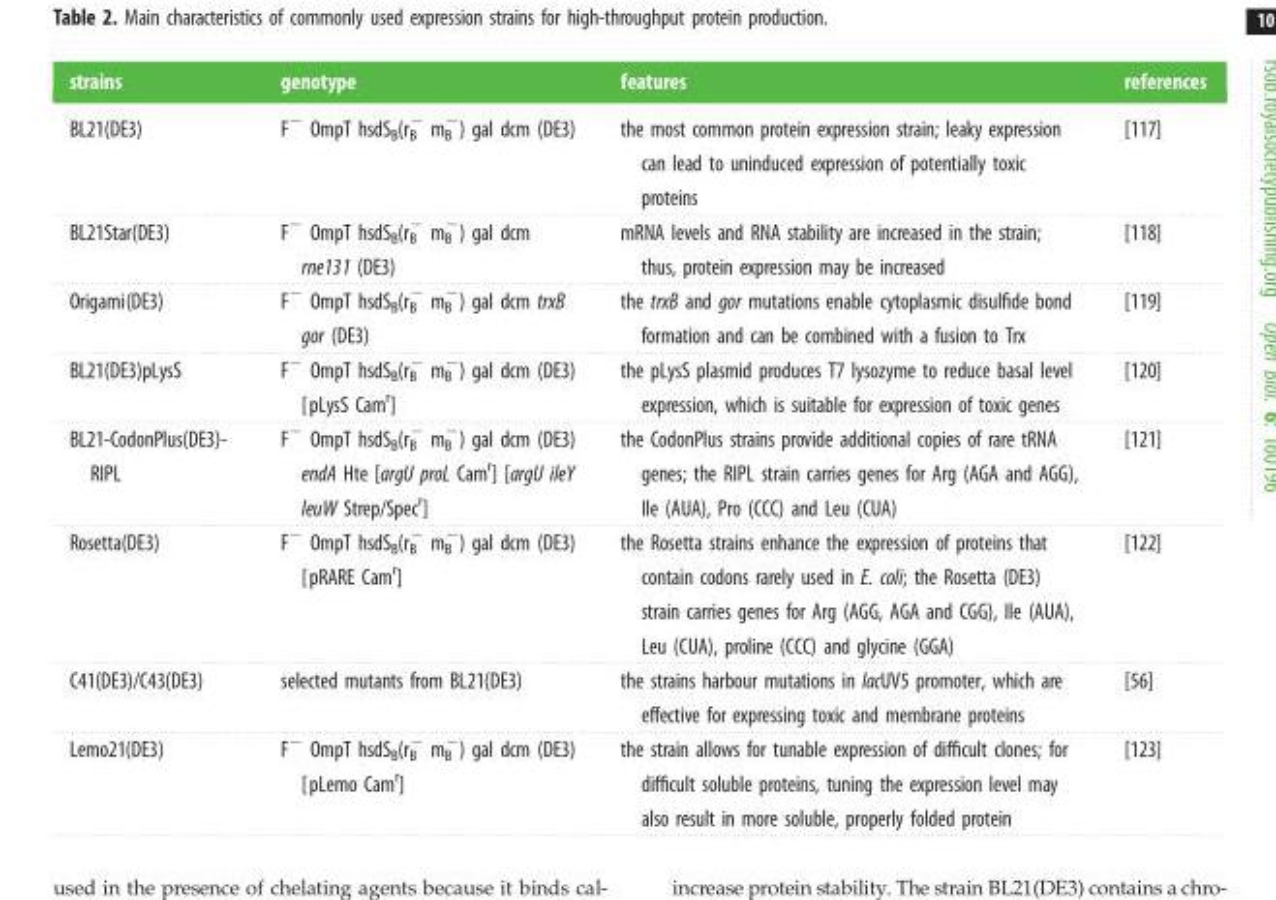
<table><thead><tr><td>strains</td><td>genotype</td><td>features</td><td>references</td></tr></thead><tbody><tr><td>BL21(DE3)</td><td>F<sup>−</sup> OmpT hsdS<sub>B</sub>(r<sub>B</sub> <sup>−</sup> m<sub>B</sub> <sup>−</sup>) gal dcm (DE3)</td><td>the most common protein expression strain; leaky expression can lead to uninduced expression of potentially toxic proteins</td><td>[117]</td></tr><tr><td>BL21Star(DE3)</td><td>F<sup>−</sup> OmpT hsdS<sub>B</sub>(r<sub>B</sub> <sup>−</sup> m<sub>B</sub> <sup>−</sup>) gal dcm rne131 (DE3)</td><td>mRNA levels and RNA stability are increased in the strain; thus, protein expression may be increased</td><td>[118]</td></tr><tr><td>Origami(DE3)</td><td>F<sup>−</sup> OmpT hsdS<sub>B</sub>(r<sub>B</sub> <sup>−</sup> m<sub>B</sub> <sup>−</sup>) gal dcm trxB gor (DE3)</td><td>the trxB and gor mutations enable cytoplasmic disulfide bond formation and can be combined with a fusion to Trx</td><td>[119]</td></tr><tr><td>BL21(DE3)pLysS</td><td>F<sup>−</sup> OmpT hsdS<sub>B</sub>(r<sub>B</sub> <sup>−</sup> m<sub>B</sub> <sup>−</sup>) gal dcm (DE3) [pLysS Cam<sup>r</sup>]</td><td>the pLysS plasmid produces T7 lysozyme to reduce basal level expression, which is suitable for expression of toxic genes</td><td>[120]</td></tr><tr><td>BL21-CodonPlus(DE3)- RIPL</td><td>F<sup>−</sup> OmpT hsdS<sub>B</sub>(r<sub>B</sub> <sup>−</sup> m<sub>B</sub> <sup>−</sup>) gal dcm (DE3) endA Hte [argU proL Cam<sup>r</sup>] [argU ileY leuW Strep/Spec<sup>r</sup>]</td><td>the CodonPlus strains provide additional copies of rare tRNA genes; the RIPL strain carries genes for Arg (AGA and AGG), Ile (AUA), Pro (CCC) and Leu (CUA)</td><td>[121]</td></tr><tr><td>Rosetta(DE3)</td><td>F<sup>−</sup> OmpT hsdS<sub>B</sub>(r<sub>B</sub> <sup>−</sup> m<sub>B</sub> <sup>−</sup>) gal dcm (DE3) [pRARE Cam<sup>r</sup>]</td><td>the Rosetta strains enhance the expression of proteins that contain codons rarely used in E. coli; the Rosetta (DE3) strain carries genes for Arg (AGG, AGA and CGG), Ile (AUA), Leu (CUA), proline (CCC) and glycine (GGA)</td><td>[122]</td></tr><tr><td>C41(DE3)/C43(DE3)</td><td>selected mutants from BL21(DE3)</td><td>the strains harbour mutations in lacUV5 promoter, which are effective for expressing toxic and membrane proteins</td><td>[56]</td></tr><tr><td>Lemo21(DE3)</td><td>F<sup>−</sup> OmpT hsdS<sub>B</sub>(r<sub>B</sub> <sup>−</sup> m<sub>B</sub> <sup>−</sup>) gal dcm (DE3) [pLemo Cam<sup>r</sup>]</td><td>the strain allows for tunable expression of difficult clones; for difficult soluble proteins, tuning the expression level may also result in more soluble, properly folded protein</td><td>[123]</td></tr></tbody></table>